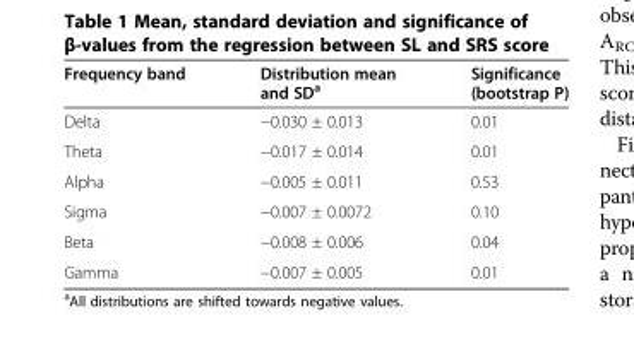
<table><thead><tr><td>Frequency band</td><td>Distribution mean and SD<sup>a</sup></td><td>Significance (bootstrap P)</td></tr></thead><tbody><tr><td>Delta</td><td>−0.030 ± 0.013</td><td>0.01</td></tr><tr><td>Theta</td><td>−0.017 ± 0.014</td><td>0.01</td></tr><tr><td>Alpha</td><td>−0.005 ± 0.011</td><td>0.53</td></tr><tr><td>Sigma</td><td>−0.007 ± 0.0072</td><td>0.10</td></tr><tr><td>Beta</td><td>−0.008 ± 0.006</td><td>0.04</td></tr><tr><td>Gamma</td><td>−0.007 ± 0.005</td><td>0.01</td></tr></tbody></table>